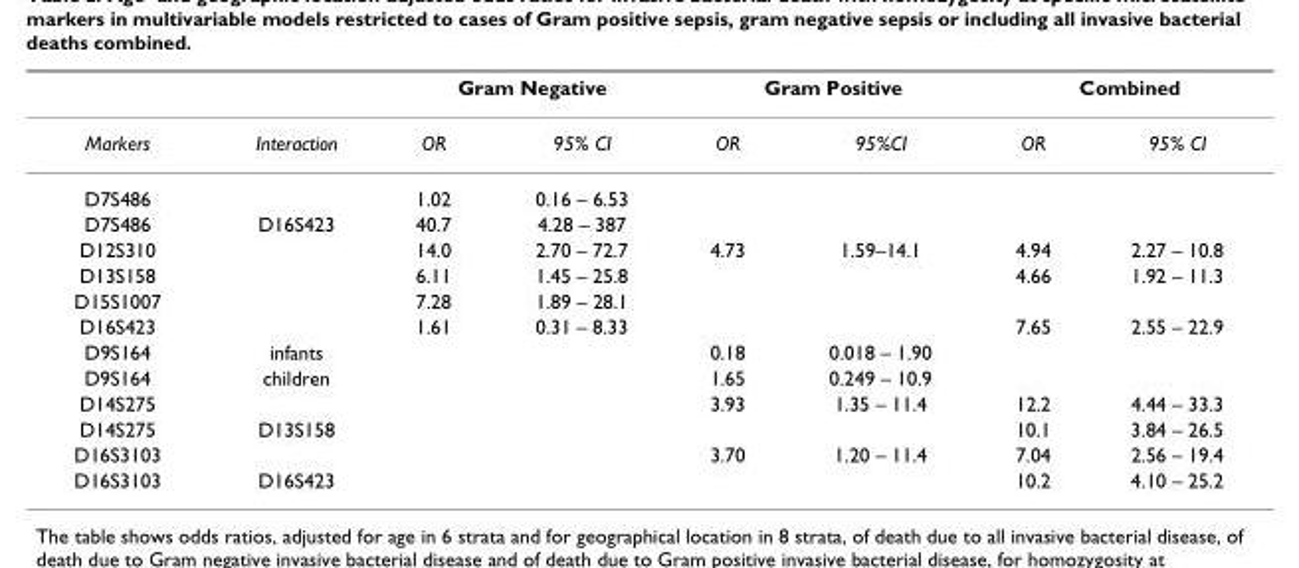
<table><thead><tr><td rowspan="2">Markers</td><td rowspan="2">Interaction</td><td colspan="2">Gram Negative</td><td colspan="2">Gram Positive</td><td colspan="2">Combined</td></tr><tr><td>OR</td><td>95% CI</td><td>OR</td><td>95%CI</td><td>OR</td><td>95% CI</td></tr></thead><tbody><tr><td>D7S486</td><td></td><td>1.02</td><td>0.16 – 6.53</td><td></td><td></td><td></td><td></td></tr><tr><td>D7S486</td><td>D16S423</td><td>40.7</td><td>4.28 – 387</td><td></td><td></td><td></td><td></td></tr><tr><td>D12S310</td><td></td><td>14.0</td><td>2.70 – 72.7</td><td>4.73</td><td>1.59–14.1</td><td>4.94</td><td>2.27 – 10.8</td></tr><tr><td>D13S158</td><td></td><td>6.11</td><td>1.45 – 25.8</td><td></td><td></td><td>4.66</td><td>1.92 – 11.3</td></tr><tr><td>D15S1007</td><td></td><td>7.28</td><td>1.89 – 28.1</td><td></td><td></td><td></td><td></td></tr><tr><td>D16S423</td><td></td><td>1.61</td><td>0.31 – 8.33</td><td></td><td></td><td>7.65</td><td>2.55 – 22.9</td></tr><tr><td>D9S164</td><td>infants</td><td></td><td></td><td>0.18</td><td>0.018 – 1.90</td><td></td><td></td></tr><tr><td>D9S164</td><td>children</td><td></td><td></td><td>1.65</td><td>0.249 – 10.9</td><td></td><td></td></tr><tr><td>D14S275</td><td></td><td></td><td></td><td>3.93</td><td>1.35 – 11.4</td><td>12.2</td><td>4.44 – 33.3</td></tr><tr><td>D14S275</td><td>D13S158</td><td></td><td></td><td></td><td></td><td>10.1</td><td>3.84 – 26.5</td></tr><tr><td>D16S3103</td><td></td><td></td><td></td><td>3.70</td><td>1.20 – 11.4</td><td>7.04</td><td>2.56 – 19.4</td></tr><tr><td>D16S3103</td><td>D16S423</td><td></td><td></td><td></td><td></td><td>10.2</td><td>4.10 – 25.2</td></tr></tbody></table>